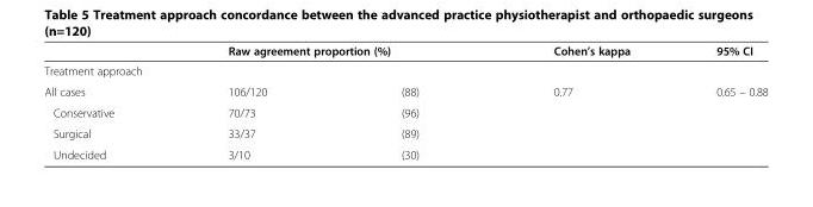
<table><thead><tr><td rowspan="2">Treatment approach</td><td colspan="2">Raw agreement proportion (%)</td><td rowspan="2">Cohen’s kappa</td><td rowspan="2">95% CI</td></tr><tr><td></td><td></td></tr></thead><tbody><tr><td>All cases</td><td>106/120</td><td>(88)</td><td>0.77</td><td>0.65 – 0.88</td></tr><tr><td>Conservative</td><td>70/73</td><td>(96)</td><td></td><td></td></tr><tr><td>Surgical</td><td>33/37</td><td>(89)</td><td></td><td></td></tr><tr><td>Undecided</td><td>3/10</td><td>(30)</td><td></td><td></td></tr></tbody></table>